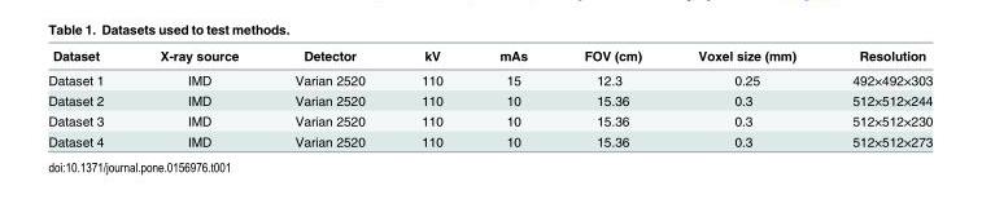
<table><thead><tr><td>Dataset</td><td>X-ray source</td><td>Detector</td><td>kV</td><td>mAs</td><td>FOV (cm)</td><td>Voxel size (mm)</td><td>Resolution</td></tr></thead><tbody><tr><td>Dataset 1</td><td>IMD</td><td>Varian 2520</td><td>110</td><td>15</td><td>12.3</td><td>0.25</td><td>492×492×303</td></tr><tr><td>Dataset 2</td><td>IMD</td><td>Varian 2520</td><td>110</td><td>10</td><td>15.36</td><td>0.3</td><td>512×512×244</td></tr><tr><td>Dataset 3</td><td>IMD</td><td>Varian 2520</td><td>110</td><td>10</td><td>15.36</td><td>0.3</td><td>512×512×230</td></tr><tr><td>Dataset 4</td><td>IMD</td><td>Varian 2520</td><td>110</td><td>10</td><td>15.36</td><td>0.3</td><td>512×512×273</td></tr></tbody></table>